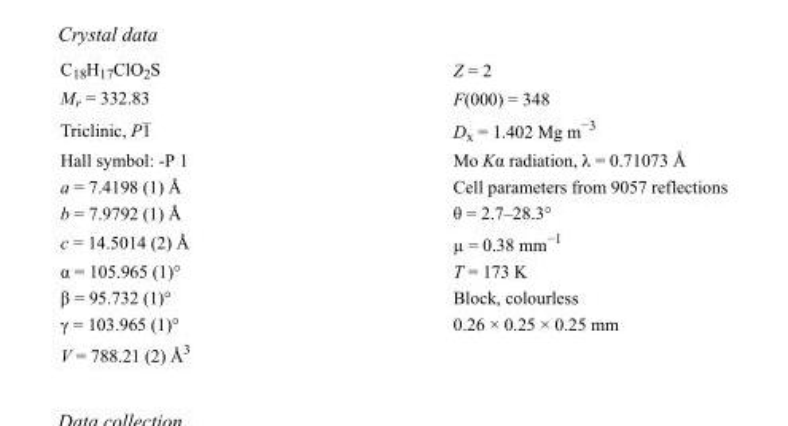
<table><tbody><tr><td>C<sub>18</sub>H<sub>17</sub>ClO<sub>2</sub>S</td><td>Z = 2</td></tr><tr><td>M<sub>r</sub> = 332.83</td><td>F(000) = 348</td></tr><tr><td>Triclinic, P1</td><td>D<sub>x</sub> = 1.402 Mg m<sup>−3</sup></td></tr><tr><td>Hall symbol: -P 1</td><td>Mo Kα radiation, λ = 0.71073 Å</td></tr><tr><td>a = 7.4198 (1) Å</td><td>Cell parameters from 9057 reflections</td></tr><tr><td>b = 7.9792 (1) Å</td><td>θ = 2.7–28.3°</td></tr><tr><td>c = 14.5014 (2) Å</td><td>µ = 0.38 mm<sup>−1</sup></td></tr><tr><td>α = 105.965 (1)°</td><td>T = 173 K</td></tr><tr><td>β = 95.732 (1)°</td><td>Block, colourless</td></tr><tr><td>γ = 103.965 (1)°</td><td>0.26 × 0.25 × 0.25 mm</td></tr><tr><td>V = 788.21 (2) Å<sup>3</sup></td><td></td></tr></tbody></table>